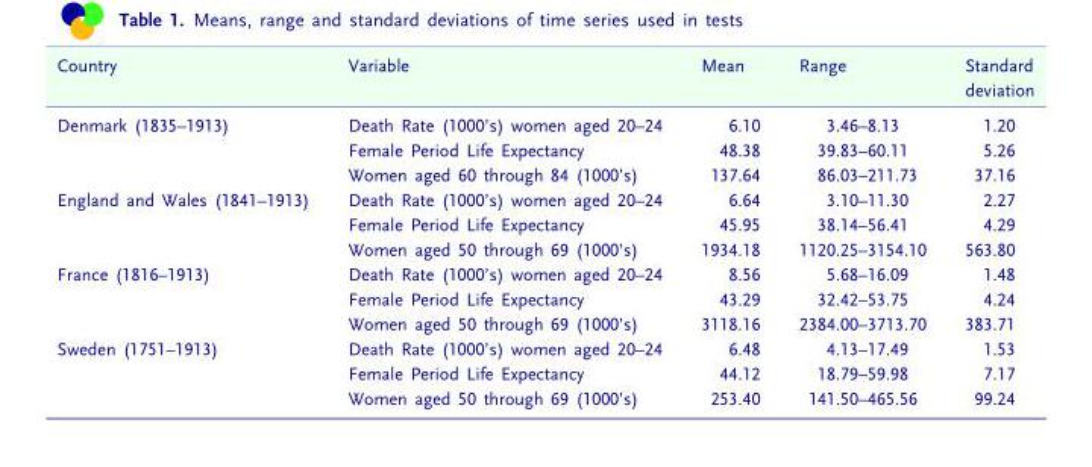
<table><thead><tr><td>Country</td><td>Variable</td><td>Mean</td><td>Range</td><td>Standard deviation</td></tr></thead><tbody><tr><td rowspan="3">Denmark (1835–1913)</td><td>Death Rate (1000’s) women aged 20–24</td><td>6.10</td><td>3.46–8.13</td><td>1.20</td></tr><tr><td>Female Period Life Expectancy</td><td>48.38</td><td>39.83–60.11</td><td>5.26</td></tr><tr><td>Women aged 60 through 84 (1000’s)</td><td>137.64</td><td>86.03–211.73</td><td>37.16</td></tr><tr><td rowspan="3">England and Wales (1841–1913)</td><td>Death Rate (1000’s) women aged 20–24</td><td>6.64</td><td>3.10–11.30</td><td>2.27</td></tr><tr><td>Female Period Life Expectancy</td><td>45.95</td><td>38.14–56.41</td><td>4.29</td></tr><tr><td>Women aged 50 through 69 (1000’s)</td><td>1934.18</td><td>1120.25–3154.10</td><td>563.80</td></tr><tr><td rowspan="3">France (1816–1913)</td><td>Death Rate (1000’s) women aged 20–24</td><td>8.56</td><td>5.68–16.09</td><td>1.48</td></tr><tr><td>Female Period Life Expectancy</td><td>43.29</td><td>32.42–53.75</td><td>4.24</td></tr><tr><td>Women aged 50 through 69 (1000’s)</td><td>3118.16</td><td>2384.00–3713.70</td><td>383.71</td></tr><tr><td rowspan="3">Sweden (1751–1913)</td><td>Death Rate (1000’s) women aged 20–24</td><td>6.48</td><td>4.13–17.49</td><td>1.53</td></tr><tr><td>Female Period Life Expectancy</td><td>44.12</td><td>18.79–59.98</td><td>7.17</td></tr><tr><td>Women aged 50 through 69 (1000’s)</td><td>253.40</td><td>141.50–465.56</td><td>99.24</td></tr></tbody></table>